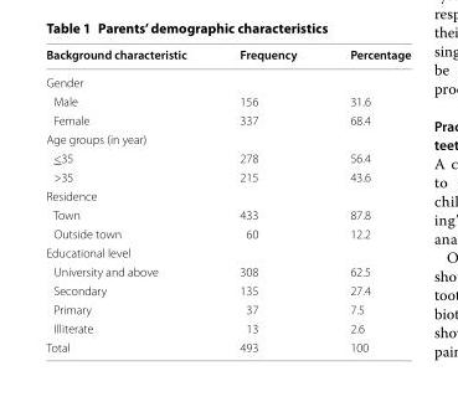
<table><thead><tr><td>Background characteristic</td><td>Frequency</td><td>Percentage</td></tr></thead><tbody><tr><td colspan="3">Gender</td></tr><tr><td>Male</td><td>156</td><td>31.6</td></tr><tr><td>Female</td><td>337</td><td>68.4</td></tr><tr><td colspan="3">Age groups (in year)</td></tr><tr><td>&lt;35</td><td>278</td><td>56.4</td></tr><tr><td>&gt;35</td><td>215</td><td>43.6</td></tr><tr><td colspan="3">Residence</td></tr><tr><td>Town</td><td>433</td><td>87.8</td></tr><tr><td>Outside town</td><td>60</td><td>12.2</td></tr><tr><td colspan="3">Educational level</td></tr><tr><td>University and above</td><td>308</td><td>62.5</td></tr><tr><td>Secondary</td><td>135</td><td>27.4</td></tr><tr><td>Primary</td><td>37</td><td>7.5</td></tr><tr><td>Illiterate</td><td>13</td><td>2.6</td></tr><tr><td>Total</td><td>493</td><td>100</td></tr></tbody></table>